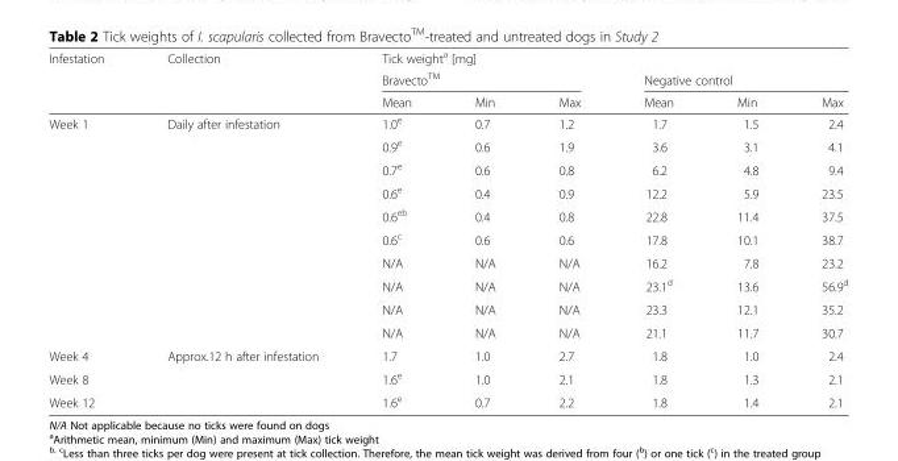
<table><thead><tr><td rowspan="3">Infestation</td><td rowspan="3">Collection</td><td colspan="6">Tick weight<sup>a</sup> [mg]</td></tr><tr><td colspan="3">Bravecto<sup>TM</sup></td><td colspan="3">Negative control</td></tr><tr><td>Mean</td><td>Min</td><td>Max</td><td>Mean</td><td>Min</td><td>Max</td></tr></thead><tbody><tr><td rowspan="10">Week 1</td><td rowspan="10">Daily after infestation</td><td>1.0<sup>e</sup></td><td>0.7</td><td>1.2</td><td>1.7</td><td>1.5</td><td>2.4</td></tr><tr><td>0.9<sup>e</sup></td><td>0.6</td><td>1.9</td><td>3.6</td><td>3.1</td><td>4.1</td></tr><tr><td>0.7<sup>e</sup></td><td>0.6</td><td>0.8</td><td>6.2</td><td>4.8</td><td>9.4</td></tr><tr><td>0.6<sup>e</sup></td><td>0.4</td><td>0.9</td><td>12.2</td><td>5.9</td><td>23.5</td></tr><tr><td>0.6<sup>eb</sup></td><td>0.4</td><td>0.8</td><td>22.8</td><td>11.4</td><td>37.5</td></tr><tr><td>0.6<sup>c</sup></td><td>0.6</td><td>0.6</td><td>17.8</td><td>10.1</td><td>38.7</td></tr><tr><td>N/A</td><td>N/A</td><td>N/A</td><td>16.2</td><td>7.8</td><td>23.2</td></tr><tr><td>N/A</td><td>N/A</td><td>N/A</td><td>23.1<sup>d</sup></td><td>13.6</td><td>56.9<sup>d</sup></td></tr><tr><td>N/A</td><td>N/A</td><td>N/A</td><td>23.3</td><td>12.1</td><td>35.2</td></tr><tr><td>N/A</td><td>N/A</td><td>N/A</td><td>21.1</td><td>11.7</td><td>30.7</td></tr><tr><td>Week 4</td><td rowspan="3">Approx.12 h after infestation</td><td>1.7</td><td>1.0</td><td>2.7</td><td>1.8</td><td>1.0</td><td>2.4</td></tr><tr><td>Week 8</td><td>1.6<sup>e</sup></td><td>1.0</td><td>2.1</td><td>1.8</td><td>1.3</td><td>2.1</td></tr><tr><td>Week 12</td><td>1.6<sup>e</sup></td><td>0.7</td><td>2.2</td><td>1.8</td><td>1.4</td><td>2.1</td></tr></tbody></table>